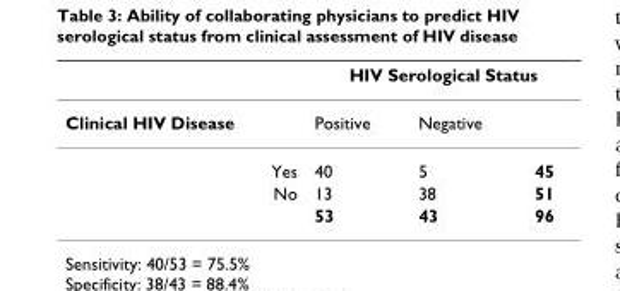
<table><thead><tr><td rowspan="2">Clinical HIV Disease</td><td colspan="3">HIV Serological Status</td></tr><tr><td>Positive</td><td>Negative</td><td></td></tr></thead><tbody><tr><td>Yes</td><td>40</td><td>5</td><td>45</td></tr><tr><td rowspan="2">No</td><td>13</td><td>38</td><td>51</td></tr><tr><td>53</td><td>43</td><td>96</td></tr></tbody></table>